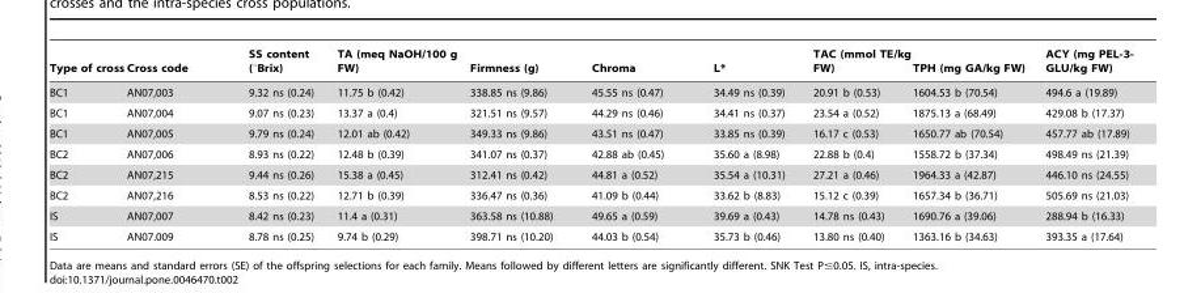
<table><thead><tr><td>Type of cross</td><td>Cross code</td><td>SS content (°Brix)</td><td>TA (meq NaOH/100 g FW)</td><td>Firmness (g)</td><td>Chroma</td><td>L*</td><td>TAC (mmol TE/kg FW)</td><td>TPH (mg GA/kg FW)</td><td>ACY (mg PEL-3- GLU/kg FW)</td></tr></thead><tbody><tr><td>BC1</td><td>AN07,003</td><td>9.32 ns (0.24)</td><td>11.75 b (0.42)</td><td>338.85 ns (9.86)</td><td>45.55 ns (0.47)</td><td>34.49 ns (0.39)</td><td>20.91 b (0.53)</td><td>1604.53 b (70.54)</td><td>494.6 a (19.89)</td></tr><tr><td>BC1</td><td>AN07,004</td><td>9.07 ns (0.23)</td><td>13.37 a (0.4)</td><td>321.51 ns (9.57)</td><td>44.29 ns (0.46)</td><td>34.41 ns (0.37)</td><td>23.54 a (0.52)</td><td>1875.13 a (68.49)</td><td>429.08 b (17.37)</td></tr><tr><td>BC1</td><td>AN07,005</td><td>9.79 ns (0.24)</td><td>12.01 ab (0.42)</td><td>349.33 ns (9.86)</td><td>43.51 ns (0.47)</td><td>33.85 ns (0.39)</td><td>16.17 c (0.53)</td><td>1650.77 ab (70.54)</td><td>457.77 ab (17.89)</td></tr><tr><td>BC2</td><td>AN07,006</td><td>8.93 ns (0.22)</td><td>12.48 b (0.39)</td><td>341.07 ns (0.37)</td><td>42.88 ab (0.45)</td><td>35.60 a (8.98)</td><td>22.88 b (0.4)</td><td>1558.72 b (37.34)</td><td>498.49 ns (21.39)</td></tr><tr><td>BC2</td><td>AN07,215</td><td>9.44 ns (0.26)</td><td>15.38 a (0.45)</td><td>312.41 ns (0.42)</td><td>44.81 a (0.52)</td><td>35.54 a (10.31)</td><td>27.21 a (0.46)</td><td>1964.33 a (42.87)</td><td>446.10 ns (24.55)</td></tr><tr><td>BC2</td><td>AN07,216</td><td>8.53 ns (0.22)</td><td>12.71 b (0.39)</td><td>336.47 ns (0.36)</td><td>41.09 b (0.44)</td><td>33.62 b (8.83)</td><td>15.12 c (0.39)</td><td>1657.34 b (36.71)</td><td>505.69 ns (21.03)</td></tr><tr><td>IS</td><td>AN07,007</td><td>8.42 ns (0.23)</td><td>11.4 a (0.31)</td><td>363.58 ns (10.88)</td><td>49.65 a (0.59)</td><td>39.69 a (0.43)</td><td>14.78 ns (0.43)</td><td>1690.76 a (39.06)</td><td>288.94 b (16.33)</td></tr><tr><td>IS</td><td>AN07.009</td><td>8.78 ns (0.25)</td><td>9.74 b (0.29)</td><td>398.71 ns (10.20)</td><td>44.03 b (0.54)</td><td>35.73 b (0.46)</td><td>13.80 ns (0.40)</td><td>1363.16 b (34.63)</td><td>393.35 a (17.64)</td></tr></tbody></table>